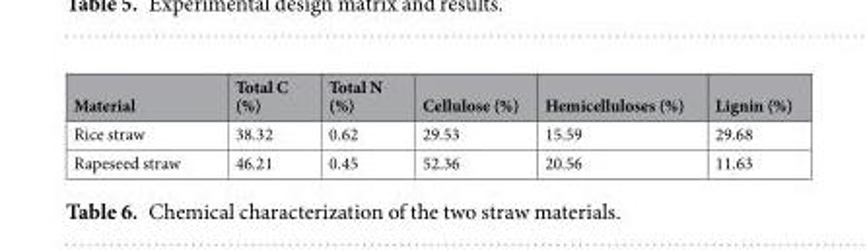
<table><thead><tr><td>Material</td><td>Total C (%)</td><td>Total N (%)</td><td>Cellulose (%)</td><td>Hemicelluloses (%)</td><td>Lignin (%)</td></tr></thead><tbody><tr><td>Rice straw</td><td>38.32</td><td>0.62</td><td>29.53</td><td>15.59</td><td>29.68</td></tr><tr><td>Rapeseed straw</td><td>46.21</td><td>0.45</td><td>52.36</td><td>20.56</td><td>11.63</td></tr></tbody></table>